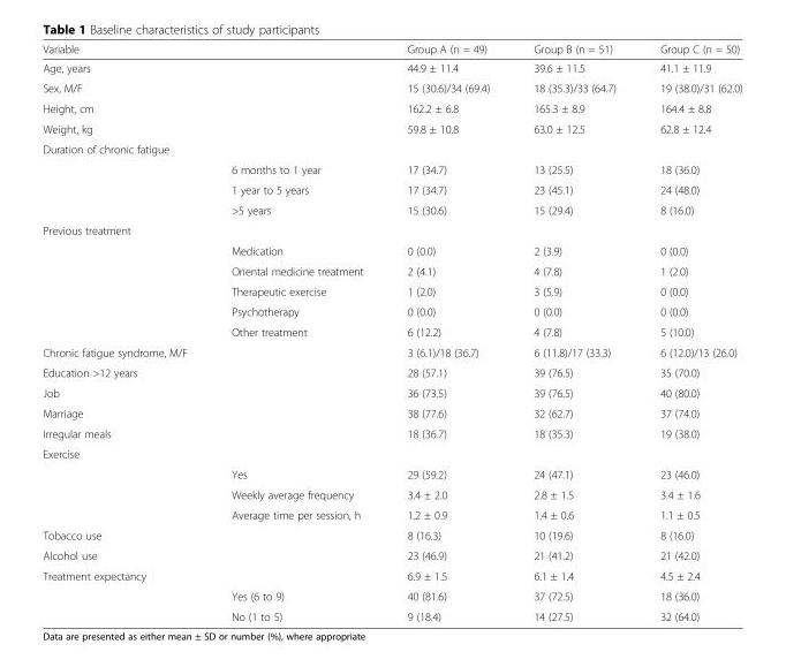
<table><thead><tr><td colspan="2">Variable</td><td rowspan="2">Group A (n = 49) 44.9 ± 11.4</td><td rowspan="2">Group B (n = 51) 39.6 ± 11.5</td><td rowspan="2">Group C (n = 50) 41.1 ± 11.9</td></tr><tr><td>Age, years</td><td></td></tr></thead><tbody><tr><td>Sex, M/F</td><td></td><td>15 (30.6)/34 (69.4)</td><td>18 (35.3)/33 (64.7)</td><td>19 (38.0)/31 (62.0)</td></tr><tr><td>Height, cm</td><td></td><td>162.2 ± 6.8</td><td>165.3 ± 8.9</td><td>164.4 ± 8.8</td></tr><tr><td>Weight, kg</td><td></td><td>59.8 ± 10.8</td><td>63.0 ± 12.5</td><td>62.8 ± 12.4</td></tr><tr><td colspan="5">Duration of chronic fatigue</td></tr><tr><td></td><td>6 months to 1 year</td><td>17 (34.7)</td><td>13 (25.5)</td><td>18 (36.0)</td></tr><tr><td></td><td>1 year to 5 years</td><td>17 (34.7)</td><td>23 (45.1)</td><td>24 (48.0)</td></tr><tr><td></td><td>&gt;5 years</td><td>15 (30.6)</td><td>15 (29.4)</td><td>8 (16.0)</td></tr><tr><td colspan="5">Previous treatment</td></tr><tr><td></td><td>Medication</td><td>0 (0.0)</td><td>2 (3.9)</td><td>0 (0.0)</td></tr><tr><td></td><td>Oriental medicine treatment</td><td>2 (4.1)</td><td>4 (7.8)</td><td>1 (2.0)</td></tr><tr><td></td><td>Therapeutic exercise</td><td>1 (2.0)</td><td>3 (5.9)</td><td>0 (0.0)</td></tr><tr><td></td><td>Psychotherapy</td><td>0 (0.0)</td><td>0 (0.0)</td><td>0 (0.0)</td></tr><tr><td></td><td>Other treatment</td><td>6 (12.2)</td><td>4 (7.8)</td><td>5 (10.0)</td></tr><tr><td>Chronic fatigue syndrome, M/F</td><td></td><td>3 (6.1)/18 (36.7)</td><td>6 (11.8)/17 (33.3)</td><td>6 (12.0)/13 (26.0)</td></tr><tr><td>Education &gt;12 years</td><td></td><td>28 (57.1)</td><td>39 (76.5)</td><td>35 (70.0)</td></tr><tr><td>Job</td><td></td><td>36 (73.5)</td><td>39 (76.5)</td><td>40 (80.0)</td></tr><tr><td>Marriage</td><td></td><td>38 (77.6)</td><td>32 (62.7)</td><td>37 (74.0)</td></tr><tr><td>Irregular meals</td><td></td><td>18 (36.7)</td><td>18 (35.3)</td><td>19 (38.0)</td></tr><tr><td colspan="5">Exercise</td></tr><tr><td></td><td>Yes</td><td>29 (59.2)</td><td>24 (47.1)</td><td>23 (46.0)</td></tr><tr><td></td><td>Weekly average frequency</td><td>3.4 ± 2.0</td><td>2.8 ± 1.5</td><td>3.4 ± 1.6</td></tr><tr><td></td><td>Average time per session, h</td><td>1.2 ± 0.9</td><td>1.4 ± 0.6</td><td>1.1 ± 0.5</td></tr><tr><td>Tobacco use</td><td></td><td>8 (16.3)</td><td>10 (19.6)</td><td>8 (16.0)</td></tr><tr><td>Alcohol use</td><td></td><td>23 (46.9)</td><td>21 (41.2)</td><td>21 (42.0)</td></tr><tr><td rowspan="3">Treatment expectancy</td><td></td><td>6.9 ± 1.5</td><td>6.1 ± 1.4</td><td>4.5 ± 2.4</td></tr><tr><td>Yes (6 to 9)</td><td>40 (81.6)</td><td>37 (72.5)</td><td>18 (36.0)</td></tr><tr><td>No (1 to 5)</td><td>9 (18.4)</td><td>14 (27.5)</td><td>32 (64.0)</td></tr></tbody></table>